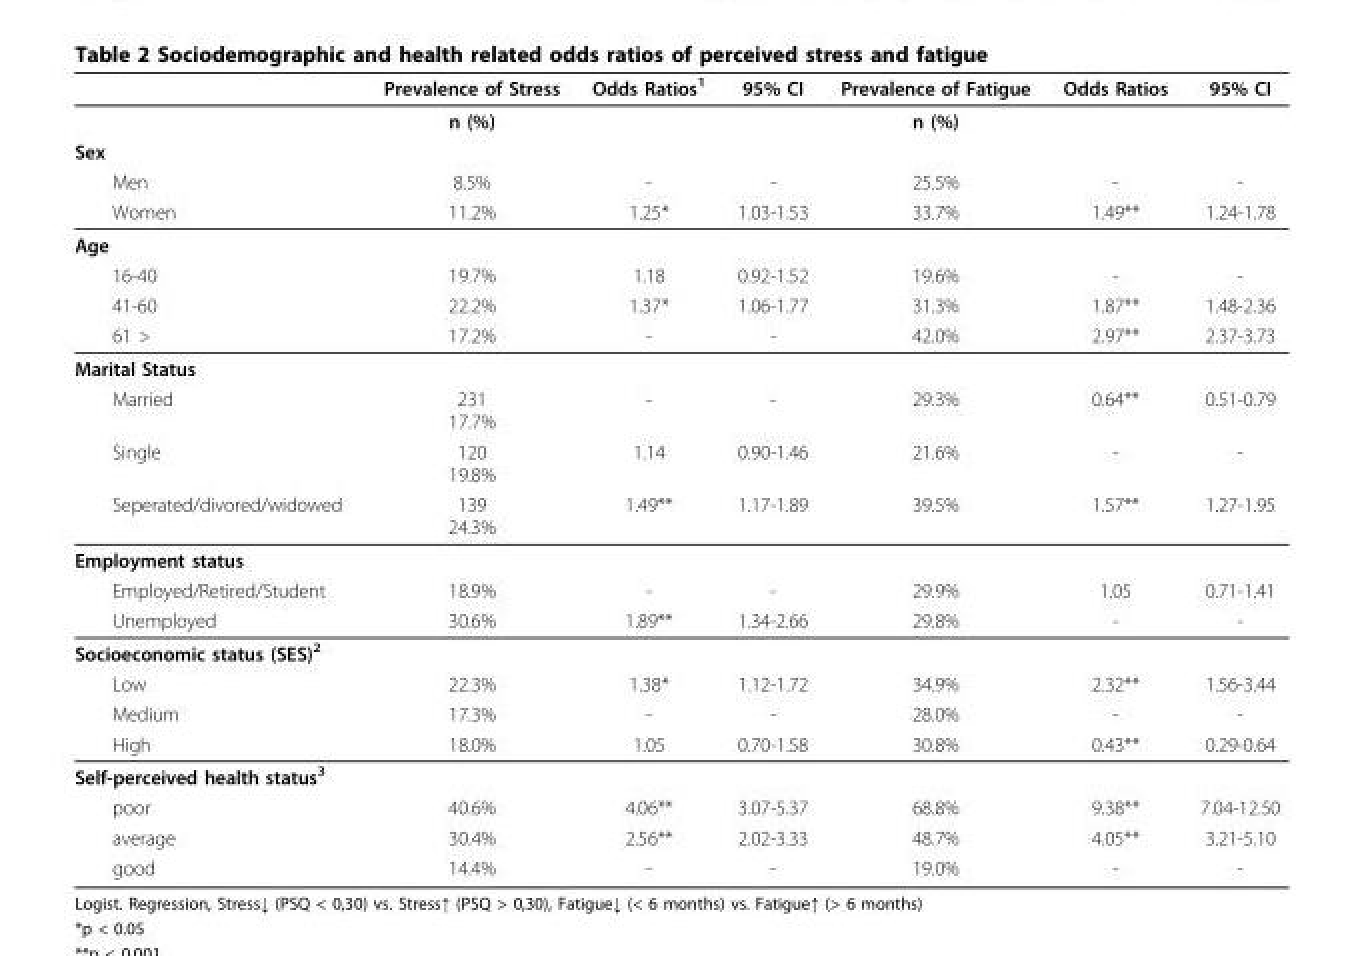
<table><thead><tr><td></td><td>Prevalence of Stress</td><td>Odds Ratios<sup>1</sup></td><td>95% CI</td><td>Prevalence of Fatigue</td><td>Odds Ratios</td><td>95% CI</td></tr></thead><tbody><tr><td></td><td>n (%)</td><td></td><td></td><td>n (%)</td><td></td><td></td></tr><tr><td colspan="7">Sex</td></tr><tr><td>Men</td><td>8.5%</td><td>-</td><td>-</td><td>25.5%</td><td>-</td><td>-</td></tr><tr><td>Women</td><td>11.2%</td><td>1.25*</td><td>1.03-1.53</td><td>33.7%</td><td>1.49**</td><td>1.24-1.78</td></tr><tr><td colspan="7">Age</td></tr><tr><td>16-40</td><td>19.7%</td><td>1.18</td><td>0.92-1.52</td><td>19.6%</td><td>-</td><td>-</td></tr><tr><td>41-60</td><td>22.2%</td><td>1.37*</td><td>1.06-1.77</td><td>31.3%</td><td>1.87**</td><td>1.48-2.36</td></tr><tr><td>61 &gt;</td><td>17.2%</td><td>-</td><td>-</td><td>42.0%</td><td>2.97**</td><td>2.37-3.73</td></tr><tr><td colspan="7">Marital Status</td></tr><tr><td>Married</td><td>231 17.7%</td><td>-</td><td>-</td><td>29.3%</td><td>0.64**</td><td>0.51-0.79</td></tr><tr><td>Single</td><td>120 19.8%</td><td>1.14</td><td>0.90-1.46</td><td>21.6%</td><td>-</td><td>-</td></tr><tr><td>Seperated/divored/widowed</td><td>139 24.3%</td><td>1.49**</td><td>1.17-1.89</td><td>39.5%</td><td>1.57**</td><td>1.27-1.95</td></tr><tr><td colspan="7">Employment status</td></tr><tr><td>Employed/Retired/Student</td><td>18.9%</td><td>-</td><td>-</td><td>29.9%</td><td>1.05</td><td>0.71-1.41</td></tr><tr><td>Unemployed</td><td>30.6%</td><td>1.89**</td><td>1.34-2.66</td><td>29.8%</td><td>-</td><td>-</td></tr><tr><td colspan="7">Socioeconomic status (SES)<sup>2</sup></td></tr><tr><td>Low</td><td>22.3%</td><td>1.38*</td><td>1.12-1.72</td><td>34.9%</td><td>2.32**</td><td>1.56-3.44</td></tr><tr><td>Medium</td><td>17.3%</td><td>-</td><td>-</td><td>28.0%</td><td>-</td><td>-</td></tr><tr><td>High</td><td>18.0%</td><td>1.05</td><td>0.70-1.58</td><td>30.8%</td><td>0.43**</td><td>0.29-0.64</td></tr><tr><td colspan="7">Self-perceived health status<sup>3</sup></td></tr><tr><td>poor</td><td>40.6%</td><td>4.06**</td><td>3.07-5.37</td><td>68.8%</td><td>9.38**</td><td>7.04-12.50</td></tr><tr><td>average</td><td>30.4%</td><td>2.56**</td><td>2.02-3.33</td><td>48.7%</td><td>4.05**</td><td>3.21-5.10</td></tr><tr><td>good</td><td>14.4%</td><td>-</td><td>-</td><td>19.0%</td><td>-</td><td>-</td></tr></tbody></table>